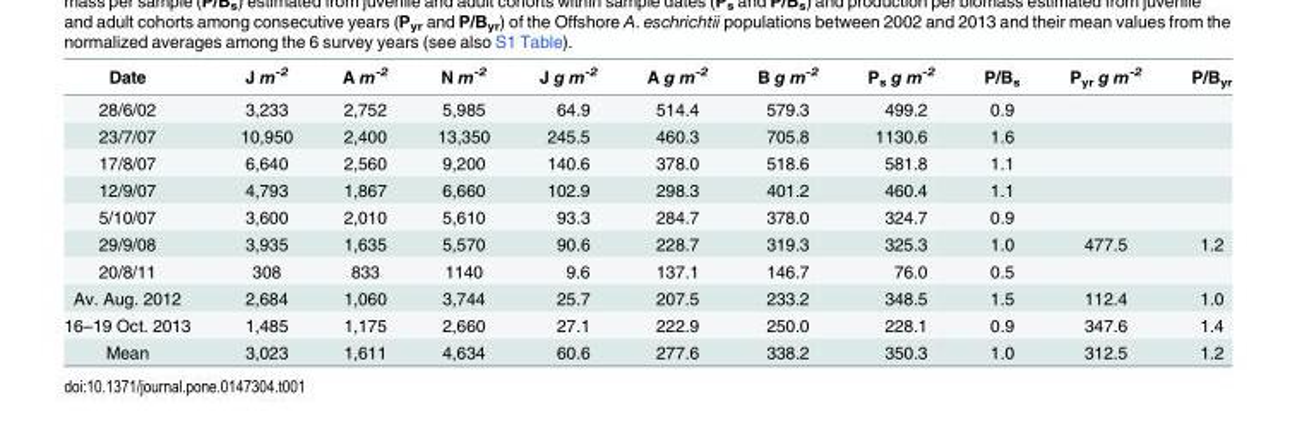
<table><thead><tr><td>Date</td><td>J m<sup>-2</sup></td><td>A m<sup>-2</sup></td><td>N m<sup>-2</sup></td><td>J g m<sup>-2</sup></td><td>A g m<sup>-2</sup></td><td>B g m<sup>-2</sup></td><td>P<sub>s</sub> g m<sup>-2</sup></td><td>P/B<sub>s</sub></td><td>P<sub>yr</sub> g m<sup>-2</sup></td><td>P/B<sub>yr</sub></td></tr></thead><tbody><tr><td>28/6/02</td><td>3,233</td><td>2,752</td><td>5,985</td><td>64.9</td><td>514.4</td><td>579.3</td><td>499.2</td><td>0.9</td><td></td><td></td></tr><tr><td>23/7/07</td><td>10,950</td><td>2,400</td><td>13,350</td><td>245.5</td><td>460.3</td><td>705.8</td><td>1130.6</td><td>1.6</td><td></td><td></td></tr><tr><td>17/8/07</td><td>6,640</td><td>2,560</td><td>9,200</td><td>140.6</td><td>378.0</td><td>518.6</td><td>581.8</td><td>1.1</td><td></td><td></td></tr><tr><td>12/9/07</td><td>4,793</td><td>1,867</td><td>6,660</td><td>102.9</td><td>298.3</td><td>401.2</td><td>460.4</td><td>1.1</td><td></td><td></td></tr><tr><td>5/10/07</td><td>3,600</td><td>2,010</td><td>5,610</td><td>93.3</td><td>284.7</td><td>378.0</td><td>324.7</td><td>0.9</td><td></td><td></td></tr><tr><td>29/9/08</td><td>3,935</td><td>1,635</td><td>5,570</td><td>90.6</td><td>228.7</td><td>319.3</td><td>325.3</td><td>1.0</td><td>477.5</td><td>1.2</td></tr><tr><td>20/8/11</td><td>308</td><td>833</td><td>1140</td><td>9.6</td><td>137.1</td><td>146.7</td><td>76.0</td><td>0.5</td><td></td><td></td></tr><tr><td>Av. Aug. 2012</td><td>2,684</td><td>1,060</td><td>3,744</td><td>25.7</td><td>207.5</td><td>233.2</td><td>348.5</td><td>1.5</td><td>112.4</td><td>1.0</td></tr><tr><td>16–19 Oct. 2013</td><td>1,485</td><td>1,175</td><td>2,660</td><td>27.1</td><td>222.9</td><td>250.0</td><td>228.1</td><td>0.9</td><td>347.6</td><td>1.4</td></tr><tr><td>Mean</td><td>3,023</td><td>1,611</td><td>4,634</td><td>60.6</td><td>277.6</td><td>338.2</td><td>350.3</td><td>1.0</td><td>312.5</td><td>1.2</td></tr></tbody></table>